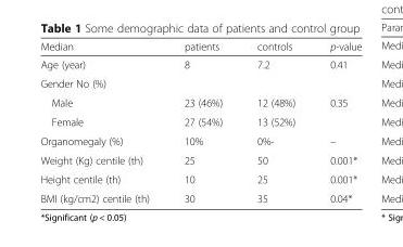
<table><thead><tr><td>Median</td><td>patients</td><td>controls</td><td>p-value</td></tr></thead><tbody><tr><td>Age (year)</td><td>8</td><td>7.2</td><td>0.41</td></tr><tr><td colspan="4">Gender No (%)</td></tr><tr><td>Male</td><td>23 (46%)</td><td>12 (48%)</td><td rowspan="2">0.35</td></tr><tr><td>Female</td><td>27 (54%)</td><td>13 (52%)</td></tr><tr><td>Organomegaly (%)</td><td>10%</td><td>0%-</td><td>–</td></tr><tr><td>Weight (Kg) centile (th)</td><td>25</td><td>50</td><td>0.001*</td></tr><tr><td>Height centile (th)</td><td>10</td><td>25</td><td>0.001*</td></tr><tr><td>BMI (kg/cm2) centile (th)</td><td>30</td><td>35</td><td>0.04*</td></tr></tbody></table>